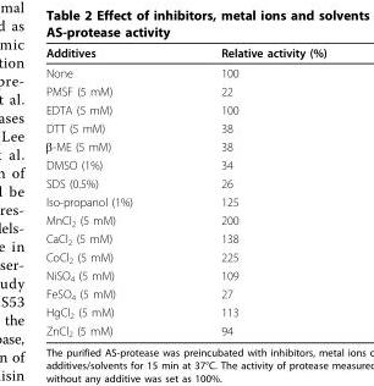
<table><thead><tr><td>Additives</td><td>Relative activity (%)</td></tr></thead><tbody><tr><td>None</td><td>100</td></tr><tr><td>PMSF (5 mM)</td><td>22</td></tr><tr><td>EDTA (5 mM)</td><td>100</td></tr><tr><td>DTT (5 mM)</td><td>38</td></tr><tr><td>β-ME (5 mM)</td><td>38</td></tr><tr><td>DMSO (1%)</td><td>34</td></tr><tr><td>SDS (0.5%)</td><td>26</td></tr><tr><td>Iso-propanol (1%)</td><td>125</td></tr><tr><td>MnCl<sub>2</sub> (5 mM)</td><td>200</td></tr><tr><td>CaCl<sub>2</sub> (5 mM)</td><td>138</td></tr><tr><td>CoCl<sub>2</sub> (5 mM)</td><td>225</td></tr><tr><td>NiSO<sub>4</sub> (5 mM)</td><td>109</td></tr><tr><td>FeSO<sub>4</sub> (5 mM)</td><td>27</td></tr><tr><td>HgCl<sub>2</sub> (5 mM)</td><td>113</td></tr><tr><td>ZnCl<sub>2</sub> (5 mM)</td><td>94</td></tr></tbody></table>